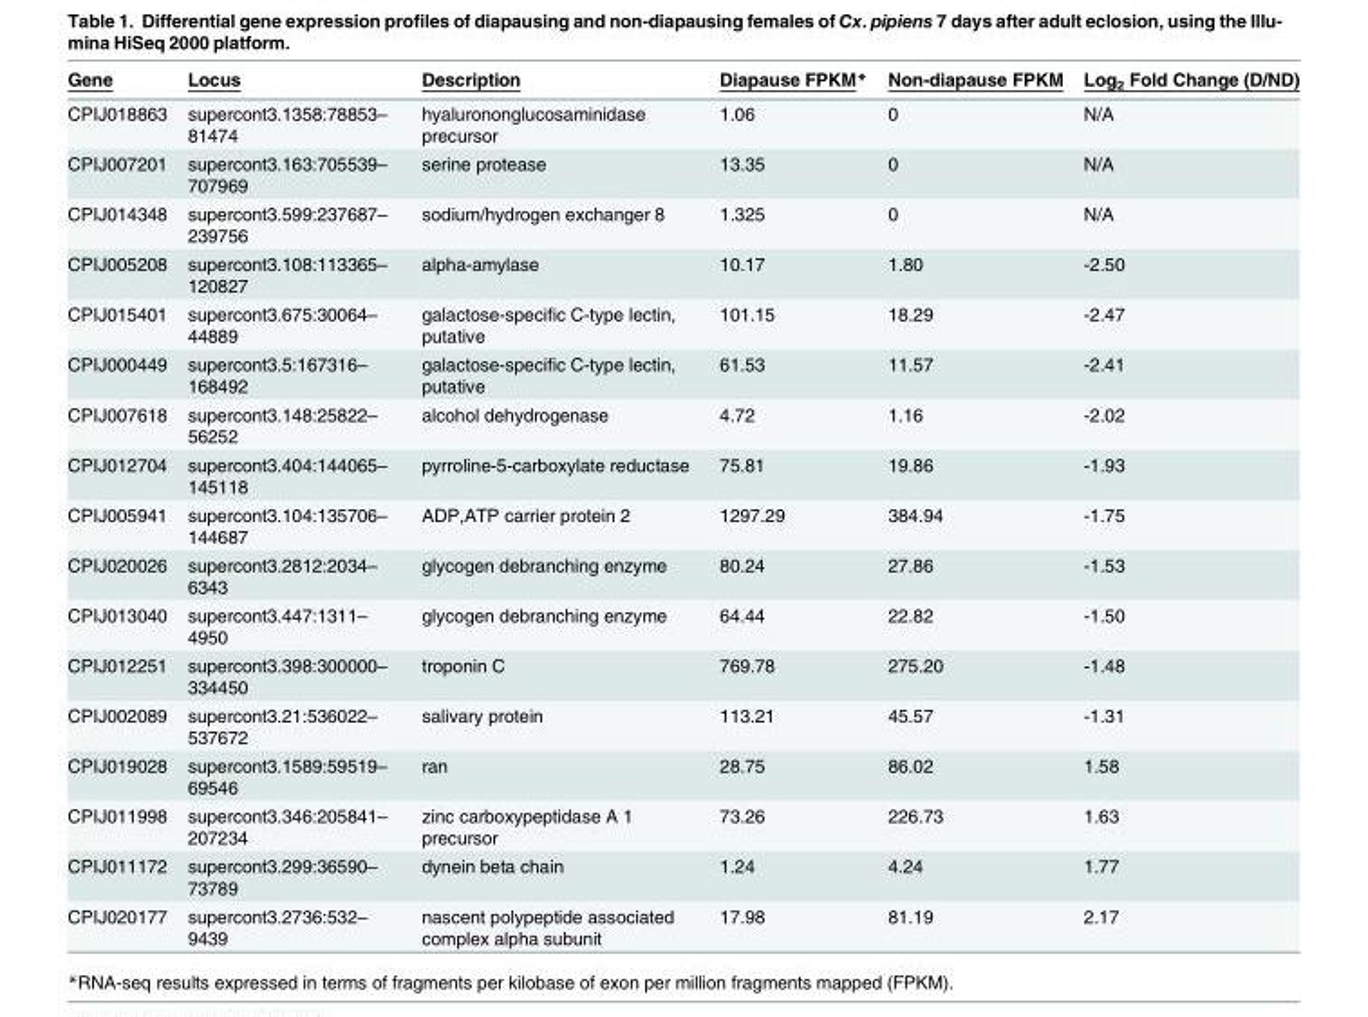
<table><thead><tr><td>Gene</td><td>Locus</td><td>Description</td><td>Diapause FPKM*</td><td>Non-diapause FPKM</td><td>Log<sub>2</sub> Fold Change (D/ND)</td></tr></thead><tbody><tr><td>CPIJ018863</td><td>supercont3.1358:78853– 81474</td><td>hyalurononglucosaminidase precursor</td><td>1.06</td><td>0</td><td>N/A</td></tr><tr><td>CPIJ007201</td><td>supercont3.163:705539– 707969</td><td>serine protease</td><td>13.35</td><td>0</td><td>N/A</td></tr><tr><td>CPIJ014348</td><td>supercont3.599:237687– 239756</td><td>sodium/hydrogen exchanger 8</td><td>1.325</td><td>0</td><td>N/A</td></tr><tr><td>CPIJ005208</td><td>supercont3.108:113365– 120827</td><td>alpha-amylase</td><td>10.17</td><td>1.80</td><td>-2.50</td></tr><tr><td>CPIJ015401</td><td>supercont3.675:30064– 44889</td><td>galactose-specific C-type lectin, putative</td><td>101.15</td><td>18.29</td><td>-2.47</td></tr><tr><td>CPIJ000449</td><td>supercont3.5:167316– 168492</td><td>galactose-specific C-type lectin, putative</td><td>61.53</td><td>11.57</td><td>-2.41</td></tr><tr><td>CPIJ007618</td><td>supercont3.148:25822– 56252</td><td>alcohol dehydrogenase</td><td>4.72</td><td>1.16</td><td>-2.02</td></tr><tr><td>CPIJ012704</td><td>supercont3.404:144065– 145118</td><td>pyrroline-5-carboxylate reductase</td><td>75.81</td><td>19.86</td><td>-1.93</td></tr><tr><td>CPIJ005941</td><td>supercont3.104:135706– 144687</td><td>ADP,ATP carrier protein 2</td><td>1297.29</td><td>384.94</td><td>-1.75</td></tr><tr><td>CPIJ020026</td><td>supercont3.2812:2034– 6343</td><td>glycogen debranching enzyme</td><td>80.24</td><td>27.86</td><td>-1.53</td></tr><tr><td>CPIJ013040</td><td>supercont3.447:1311– 4950</td><td>glycogen debranching enzyme</td><td>64.44</td><td>22.82</td><td>-1.50</td></tr><tr><td>CPIJ012251</td><td>supercont3.398:300000– 334450</td><td>troponin C</td><td>769.78</td><td>275.20</td><td>-1.48</td></tr><tr><td>CPIJ002089</td><td>supercont3.21:536022– 537672</td><td>salivary protein</td><td>113.21</td><td>45.57</td><td>-1.31</td></tr><tr><td>CPIJ019028</td><td>supercont3.1589:59519– 69546</td><td>ran</td><td>28.75</td><td>86.02</td><td>1.58</td></tr><tr><td>CPIJ011998</td><td>supercont3.346:205841– 207234</td><td>zinc carboxypeptidase A 1 precursor</td><td>73.26</td><td>226.73</td><td>1.63</td></tr><tr><td>CPIJ011172</td><td>supercont3.299:36590– 73789</td><td>dynein beta chain</td><td>1.24</td><td>4.24</td><td>1.77</td></tr><tr><td>CPIJ020177</td><td>supercont3.2736:532– 9439</td><td>nascent polypeptide associated complex alpha subunit</td><td>17.98</td><td>81.19</td><td>2.17</td></tr></tbody></table>